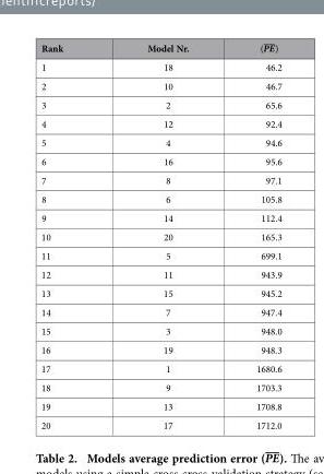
<table><thead><tr><td>Rank</td><td>Model Nr.</td><td>(PE)</td></tr></thead><tbody><tr><td>1</td><td>18</td><td>46.2</td></tr><tr><td>2</td><td>10</td><td>46.7</td></tr><tr><td>3</td><td>2</td><td>65.6</td></tr><tr><td>4</td><td>12</td><td>92.4</td></tr><tr><td>5</td><td>4</td><td>94.6</td></tr><tr><td>6</td><td>16</td><td>95.6</td></tr><tr><td>7</td><td>8</td><td>97.1</td></tr><tr><td>8</td><td>6</td><td>105.8</td></tr><tr><td>9</td><td>14</td><td>112.4</td></tr><tr><td>10</td><td>20</td><td>165.3</td></tr><tr><td>11</td><td>5</td><td>699.1</td></tr><tr><td>12</td><td>11</td><td>943.9</td></tr><tr><td>13</td><td>15</td><td>945.2</td></tr><tr><td>14</td><td>7</td><td>947.4</td></tr><tr><td>15</td><td>3</td><td>948.0</td></tr><tr><td>16</td><td>19</td><td>948.3</td></tr><tr><td>17</td><td>1</td><td>1680.6</td></tr><tr><td>18</td><td>9</td><td>1703.3</td></tr><tr><td>19</td><td>13</td><td>1708.8</td></tr><tr><td>20</td><td>17</td><td>1712.0</td></tr></tbody></table>